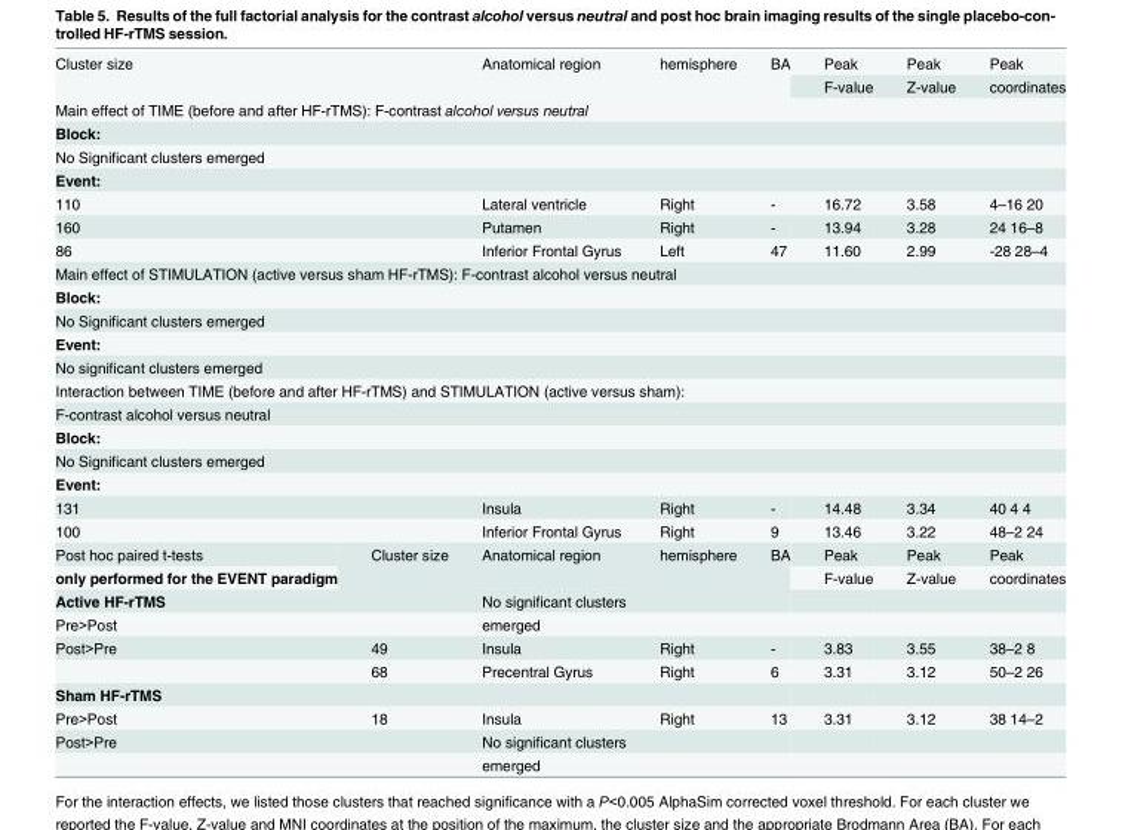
<table><tbody><tr><td rowspan="2" colspan="2">Cluster size</td><td rowspan="2">Anatomical region</td><td rowspan="2">hemisphere</td><td rowspan="2">BA</td><td>Peak</td><td>Peak</td><td>Peak</td></tr><tr><td>F-value</td><td>Z-value</td><td>coordinates</td></tr><tr><td colspan="8">Main effect of TIME (before and after HF-rTMS): F-contrast alcohol versus neutral</td></tr><tr><td colspan="8">Block:</td></tr><tr><td colspan="8">No Significant clusters emerged</td></tr><tr><td colspan="8">Event:</td></tr><tr><td colspan="2">110</td><td>Lateral ventricle</td><td>Right</td><td>-</td><td>16.72</td><td>3.58</td><td>4–16 20</td></tr><tr><td colspan="2">160</td><td>Putamen</td><td>Right</td><td>-</td><td>13.94</td><td>3.28</td><td>24 16–8</td></tr><tr><td colspan="2">86</td><td>Inferior Frontal Gyrus</td><td>Left</td><td>47</td><td>11.60</td><td>2.99</td><td>-28 28–4</td></tr><tr><td colspan="8">Main effect of STIMULATION (active versus sham HF-rTMS): F-contrast alcohol versus neutral</td></tr><tr><td colspan="8">Block:</td></tr><tr><td colspan="8">No Significant clusters emerged</td></tr><tr><td colspan="8">Event:</td></tr><tr><td colspan="8">No significant clusters emerged</td></tr><tr><td colspan="8">Interaction between TIME (before and after HF-rTMS) and STIMULATION (active versus sham):</td></tr><tr><td colspan="8">F-contrast alcohol versus neutral</td></tr><tr><td colspan="8">Block:</td></tr><tr><td colspan="8">No Significant clusters emerged</td></tr><tr><td colspan="8">Event:</td></tr><tr><td colspan="2">131</td><td>Insula</td><td>Right</td><td>-</td><td>14.48</td><td>3.34</td><td>40 4 4</td></tr><tr><td colspan="2">100</td><td>Inferior Frontal Gyrus</td><td>Right</td><td>9</td><td>13.46</td><td>3.22</td><td>48–2 24</td></tr><tr><td>Post hoc paired t-tests</td><td rowspan="2">Cluster size</td><td rowspan="2">Anatomical region</td><td rowspan="2">hemisphere</td><td rowspan="2">BA</td><td>Peak</td><td>Peak</td><td>Peak</td></tr><tr><td>only performed for the EVENT paradigm</td><td>F-value</td><td>Z-value</td><td>coordinates</td></tr><tr><td>Active HF-rTMS</td><td></td><td>No significant clusters</td><td></td><td></td><td></td><td></td><td></td></tr><tr><td>Pre&gt;Post</td><td></td><td>emerged</td><td></td><td></td><td></td><td></td><td></td></tr><tr><td rowspan="2">Post&gt;Pre</td><td>49</td><td>Insula</td><td>Right</td><td>-</td><td>3.83</td><td>3.55</td><td>38–2 8</td></tr><tr><td>68</td><td>Precentral Gyrus</td><td>Right</td><td>6</td><td>3.31</td><td>3.12</td><td>50–2 26</td></tr><tr><td colspan="8">Sham HF-rTMS</td></tr><tr><td>Pre&gt;Post</td><td>18</td><td>Insula</td><td>Right</td><td>13</td><td>3.31</td><td>3.12</td><td>38 14–2</td></tr><tr><td rowspan="2">Post&gt;Pre</td><td></td><td>No significant clusters</td><td></td><td></td><td></td><td></td><td></td></tr><tr><td></td><td>emerged</td><td></td><td></td><td></td><td></td><td></td></tr></tbody></table>